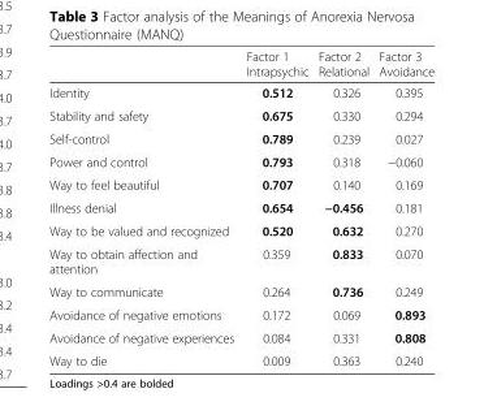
<table><thead><tr><td></td><td>Factor 1 Intrapsychic</td><td>Factor 2 Relational</td><td>Factor 3 Avoidance</td></tr></thead><tbody><tr><td>Identity</td><td>0.512</td><td>0.326</td><td>0.395</td></tr><tr><td>Stability and safety</td><td>0.675</td><td>0.330</td><td>0.294</td></tr><tr><td>Self-control</td><td>0.789</td><td>0.239</td><td>0.027</td></tr><tr><td>Power and control</td><td>0.793</td><td>0.318</td><td>−0.060</td></tr><tr><td>Way to feel beautiful</td><td>0.707</td><td>0.140</td><td>0.169</td></tr><tr><td>Illness denial</td><td>0.654</td><td>−0.456</td><td>0.181</td></tr><tr><td>Way to be valued and recognized</td><td>0.520</td><td>0.632</td><td>0.270</td></tr><tr><td>Way to obtain affection and attention</td><td>0.359</td><td>0.833</td><td>0.070</td></tr><tr><td>Way to communicate</td><td>0.264</td><td>0.736</td><td>0.249</td></tr><tr><td>Avoidance of negative emotions</td><td>0.172</td><td>0.069</td><td>0.893</td></tr><tr><td>Avoidance of negative experiences</td><td>0.084</td><td>0.331</td><td>0.808</td></tr><tr><td>Way to die</td><td>0.009</td><td>0.363</td><td>0.240</td></tr></tbody></table>